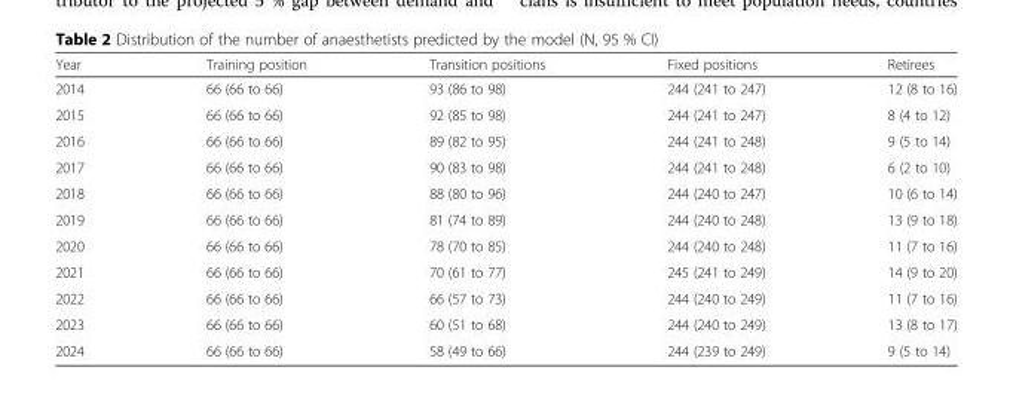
<table><thead><tr><td>Year</td><td>Training position</td><td>Transition positions</td><td>Fixed positions</td><td>Retirees</td></tr></thead><tbody><tr><td>2014</td><td>66 (66 to 66)</td><td>93 (86 to 98)</td><td>244 (241 to 247)</td><td>12 (8 to 16)</td></tr><tr><td>2015</td><td>66 (66 to 66)</td><td>92 (85 to 98)</td><td>244 (241 to 247)</td><td>8 (4 to 12)</td></tr><tr><td>2016</td><td>66 (66 to 66)</td><td>89 (82 to 95)</td><td>244 (241 to 248)</td><td>9 (5 to 14)</td></tr><tr><td>2017</td><td>66 (66 to 66)</td><td>90 (83 to 98)</td><td>244 (241 to 248)</td><td>6 (2 to 10)</td></tr><tr><td>2018</td><td>66 (66 to 66)</td><td>88 (80 to 96)</td><td>244 (240 to 247)</td><td>10 (6 to 14)</td></tr><tr><td>2019</td><td>66 (66 to 66)</td><td>81 (74 to 89)</td><td>244 (240 to 248)</td><td>13 (9 to 18)</td></tr><tr><td>2020</td><td>66 (66 to 66)</td><td>78 (70 to 85)</td><td>244 (240 to 248)</td><td>11 (7 to 16)</td></tr><tr><td>2021</td><td>66 (66 to 66)</td><td>70 (61 to 77)</td><td>245 (241 to 249)</td><td>14 (9 to 20)</td></tr><tr><td>2022</td><td>66 (66 to 66)</td><td>66 (57 to 73)</td><td>244 (240 to 249)</td><td>11 (7 to 16)</td></tr><tr><td>2023</td><td>66 (66 to 66)</td><td>60 (51 to 68)</td><td>244 (240 to 249)</td><td>13 (8 to 17)</td></tr><tr><td>2024</td><td>66 (66 to 66)</td><td>58 (49 to 66)</td><td>244 (239 to 249)</td><td>9 (5 to 14)</td></tr></tbody></table>